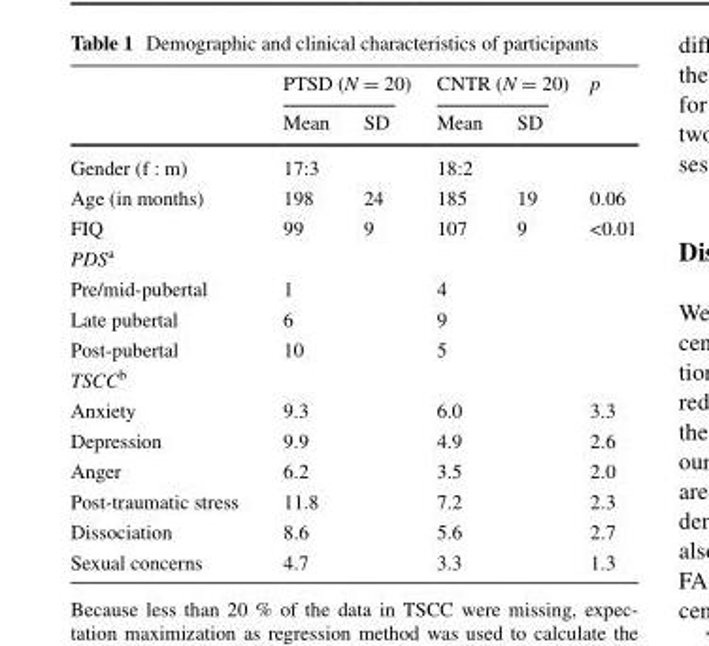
<table><thead><tr><td rowspan="2"></td><td colspan="2">PTSD (N = 20)</td><td colspan="2">CNTR (N = 20)</td><td rowspan="2">p</td></tr><tr><td>Mean</td><td>SD</td><td>Mean</td><td>SD</td></tr></thead><tbody><tr><td>Gender (f : m)</td><td>17:3</td><td></td><td>18:2</td><td></td><td></td></tr><tr><td>Age (in months)</td><td>198</td><td>24</td><td>185</td><td>19</td><td>0.06</td></tr><tr><td>FIQ</td><td>99</td><td>9</td><td>107</td><td>9</td><td>&lt;0.01</td></tr><tr><td colspan="6">PDS<sup>a</sup></td></tr><tr><td>Pre/mid-pubertal</td><td>1</td><td></td><td>4</td><td></td><td></td></tr><tr><td>Late pubertal</td><td>6</td><td></td><td>9</td><td></td><td></td></tr><tr><td>Post-pubertal</td><td>10</td><td></td><td>5</td><td></td><td></td></tr><tr><td colspan="6">TSCC<sup>b</sup></td></tr><tr><td>Anxiety</td><td>9.3</td><td></td><td>6.0</td><td></td><td>3.3</td></tr><tr><td>Depression</td><td>9.9</td><td></td><td>4.9</td><td></td><td>2.6</td></tr><tr><td>Anger</td><td>6.2</td><td></td><td>3.5</td><td></td><td>2.0</td></tr><tr><td>Post-traumatic stress</td><td>11.8</td><td></td><td>7.2</td><td></td><td>2.3</td></tr><tr><td>Dissociation</td><td>8.6</td><td></td><td>5.6</td><td></td><td>2.7</td></tr><tr><td>Sexual concerns</td><td>4.7</td><td></td><td>3.3</td><td></td><td>1.3</td></tr></tbody></table>